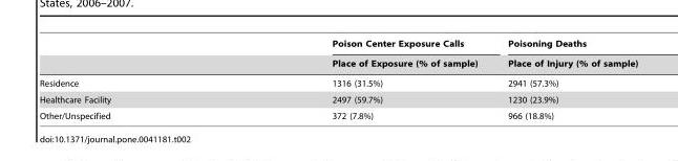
<table><thead><tr><td rowspan="2"></td><td rowspan="2">Poison Center Exposure Calls Place of Exposure (% of sample)</td><td rowspan="2">Poisoning Deaths Place of Injury (% of sample)</td></tr><tr></tr></thead><tbody><tr><td>Residence</td><td>1316 (31.5%)</td><td>2941 (57.3%)</td></tr><tr><td>Healthcare Facility</td><td>2497 (59.7%)</td><td>1230 (23.9%)</td></tr><tr><td>Other/Unspecified</td><td>372 (7.8%)</td><td>966 (18.8%)</td></tr></tbody></table>